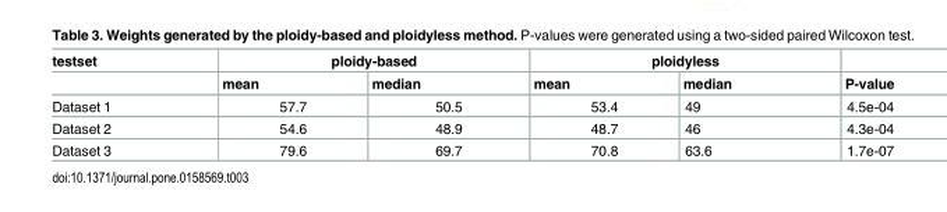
<table><thead><tr><td rowspan="2">testset</td><td colspan="2">ploidy-based</td><td colspan="2">ploidyless</td><td rowspan="2">P-value</td></tr><tr><td>mean</td><td>median</td><td>mean</td><td>median</td></tr></thead><tbody><tr><td>Dataset 1</td><td>57.7</td><td>50.5</td><td>53.4</td><td>49</td><td>4.5e-04</td></tr><tr><td>Dataset 2</td><td>54.6</td><td>48.9</td><td>48.7</td><td>46</td><td>4.3e-04</td></tr><tr><td>Dataset 3</td><td>79.6</td><td>69.7</td><td>70.8</td><td>63.6</td><td>1.7e-07</td></tr></tbody></table>